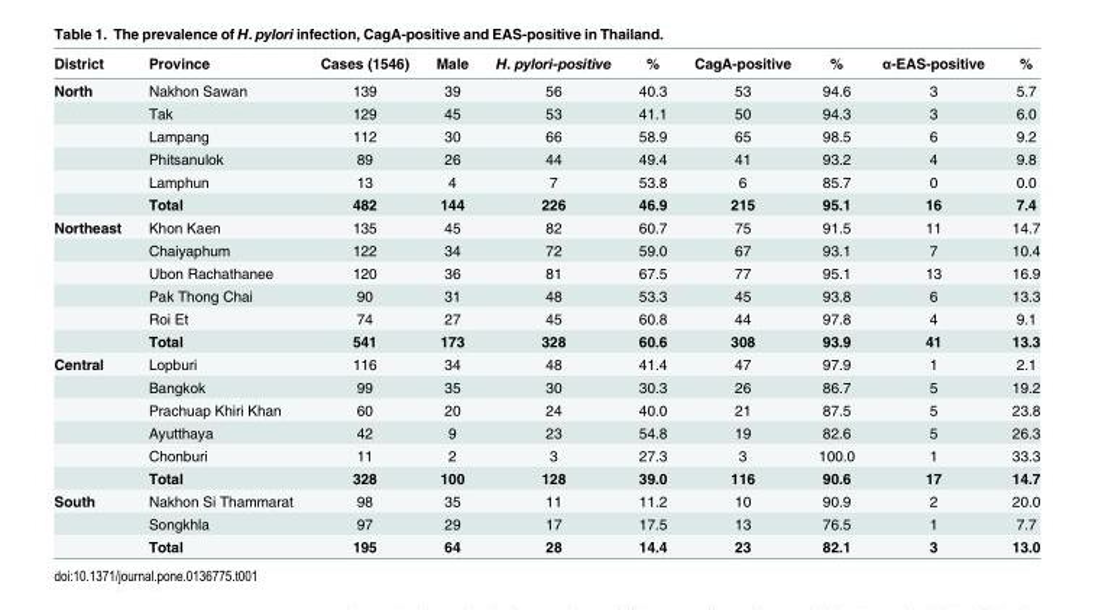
<table><thead><tr><td>District</td><td>Province</td><td>Cases (1546)</td><td>Male</td><td>H. pylori-positive</td><td>%</td><td>CagA-positive</td><td>%</td><td>α-EAS-positive</td><td>%</td></tr></thead><tbody><tr><td rowspan="6">North</td><td>Nakhon Sawan</td><td>139</td><td>39</td><td>56</td><td>40.3</td><td>53</td><td>94.6</td><td>3</td><td>5.7</td></tr><tr><td>Tak</td><td>129</td><td>45</td><td>53</td><td>41.1</td><td>50</td><td>94.3</td><td>3</td><td>6.0</td></tr><tr><td>Lampang</td><td>112</td><td>30</td><td>66</td><td>58.9</td><td>65</td><td>98.5</td><td>6</td><td>9.2</td></tr><tr><td>Phitsanulok</td><td>89</td><td>26</td><td>44</td><td>49.4</td><td>41</td><td>93.2</td><td>4</td><td>9.8</td></tr><tr><td>Lamphun</td><td>13</td><td>4</td><td>7</td><td>53.8</td><td>6</td><td>85.7</td><td>0</td><td>0.0</td></tr><tr><td>Total</td><td>482</td><td>144</td><td>226</td><td>46.9</td><td>215</td><td>95.1</td><td>16</td><td>7.4</td></tr><tr><td rowspan="6">Northeast</td><td>Khon Kaen</td><td>135</td><td>45</td><td>82</td><td>60.7</td><td>75</td><td>91.5</td><td>11</td><td>14.7</td></tr><tr><td>Chaiyaphum</td><td>122</td><td>34</td><td>72</td><td>59.0</td><td>67</td><td>93.1</td><td>7</td><td>10.4</td></tr><tr><td>Ubon Rachathanee</td><td>120</td><td>36</td><td>81</td><td>67.5</td><td>77</td><td>95.1</td><td>13</td><td>16.9</td></tr><tr><td>Pak Thong Chai</td><td>90</td><td>31</td><td>48</td><td>53.3</td><td>45</td><td>93.8</td><td>6</td><td>13.3</td></tr><tr><td>Roi Et</td><td>74</td><td>27</td><td>45</td><td>60.8</td><td>44</td><td>97.8</td><td>4</td><td>9.1</td></tr><tr><td>Total</td><td>541</td><td>173</td><td>328</td><td>60.6</td><td>308</td><td>93.9</td><td>41</td><td>13.3</td></tr><tr><td rowspan="6">Central</td><td>Lopburi</td><td>116</td><td>34</td><td>48</td><td>41.4</td><td>47</td><td>97.9</td><td>1</td><td>2.1</td></tr><tr><td>Bangkok</td><td>99</td><td>35</td><td>30</td><td>30.3</td><td>26</td><td>86.7</td><td>5</td><td>19.2</td></tr><tr><td>Prachuap Khiri Khan</td><td>60</td><td>20</td><td>24</td><td>40.0</td><td>21</td><td>87.5</td><td>5</td><td>23.8</td></tr><tr><td>Ayutthaya</td><td>42</td><td>9</td><td>23</td><td>54.8</td><td>19</td><td>82.6</td><td>5</td><td>26.3</td></tr><tr><td>Chonburi</td><td>11</td><td>2</td><td>3</td><td>27.3</td><td>3</td><td>100.0</td><td>1</td><td>33.3</td></tr><tr><td>Total</td><td>328</td><td>100</td><td>128</td><td>39.0</td><td>116</td><td>90.6</td><td>17</td><td>14.7</td></tr><tr><td rowspan="3">South</td><td>Nakhon Si Thammarat</td><td>98</td><td>35</td><td>11</td><td>11.2</td><td>10</td><td>90.9</td><td>2</td><td>20.0</td></tr><tr><td>Songkhla</td><td>97</td><td>29</td><td>17</td><td>17.5</td><td>13</td><td>76.5</td><td>1</td><td>7.7</td></tr><tr><td>Total</td><td>195</td><td>64</td><td>28</td><td>14.4</td><td>23</td><td>82.1</td><td>3</td><td>13.0</td></tr></tbody></table>